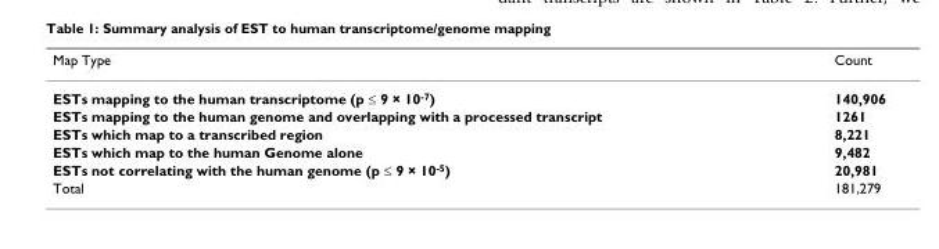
<table><thead><tr><td>Map Type</td><td>Count</td></tr></thead><tbody><tr><td>ESTs mapping to the human transcriptome (p ≤ 9 × 10-7)</td><td>140,906</td></tr><tr><td>ESTs mapping to the human genome and overlapping with a processed transcript</td><td>1261</td></tr><tr><td>ESTs which map to a transcribed region</td><td>8,221</td></tr><tr><td>ESTs which map to the human Genome alone</td><td>9,482</td></tr><tr><td>ESTs not correlating with the human genome (p ≤ 9 × 10-5)</td><td>20,981</td></tr><tr><td>Total</td><td>181,279</td></tr></tbody></table>